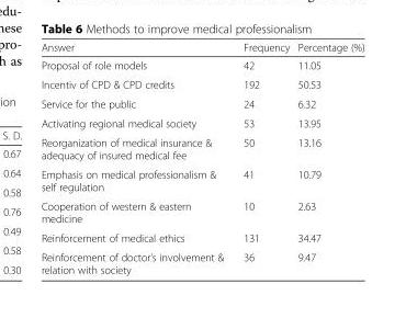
<table><thead><tr><td>Answer</td><td>Frequency</td><td>Percentage (%)</td></tr></thead><tbody><tr><td>Proposal of role models</td><td>42</td><td>11.05</td></tr><tr><td>Incentiv of CPD &amp; CPD credits</td><td>192</td><td>50.53</td></tr><tr><td>Service for the public</td><td>24</td><td>6.32</td></tr><tr><td>Activating regional medical society</td><td>53</td><td>13.95</td></tr><tr><td>Reorganization of medical insurance &amp; adequacy of insured medical fee</td><td>50</td><td>13.16</td></tr><tr><td>Emphasis on medical professionalism &amp; self regulation</td><td>41</td><td>10.79</td></tr><tr><td>Cooperation of western &amp; eastern medicine</td><td>10</td><td>2.63</td></tr><tr><td>Reinforcement of medical ethics</td><td>131</td><td>34.47</td></tr><tr><td>Reinforcement of doctor’s involvement &amp; relation with society</td><td>36</td><td>9.47</td></tr></tbody></table>